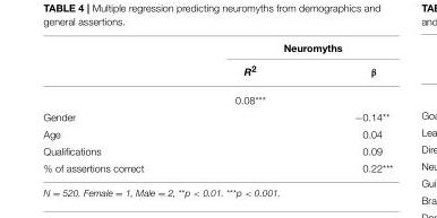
<table><thead><tr><td rowspan="2"></td><td colspan="2">Neuromyths</td></tr><tr><td>R<sup>2</sup></td><td>β</td></tr></thead><tbody><tr><td></td><td>0.08***</td><td></td></tr><tr><td>Gender</td><td></td><td>−0.14**</td></tr><tr><td>Age</td><td></td><td>0.04</td></tr><tr><td>Qualifications</td><td></td><td>0.09</td></tr><tr><td>% of assertions correct</td><td></td><td>0.22***</td></tr></tbody></table>